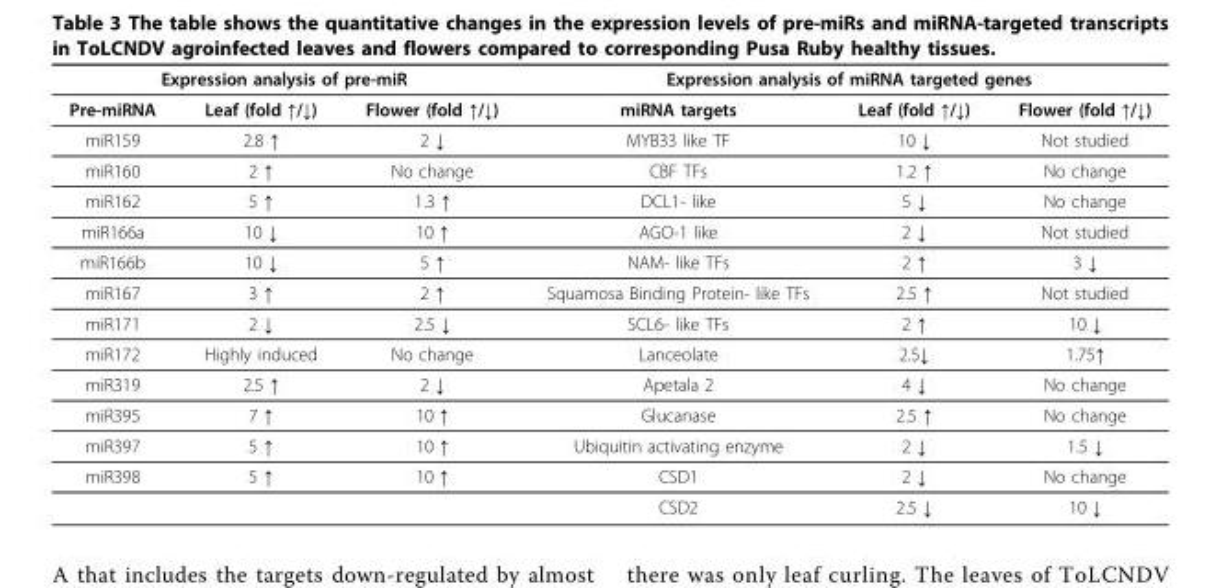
<table><thead><tr><td colspan="3">Expression analysis of pre-miR</td><td colspan="3">Expression analysis of miRNA targeted genes</td></tr><tr><td>Pre-miRNA</td><td>Leaf (fold ↑/↓)</td><td>Flower (fold ↑/↓)</td><td>miRNA targets</td><td>Leaf (fold ↑/↓)</td><td>Flower (fold ↑/↓)</td></tr></thead><tbody><tr><td>miR159</td><td>2.8 ↑</td><td>2 ↓</td><td>MYB33 like TF</td><td>10 ↓</td><td>Not studied</td></tr><tr><td>miR160</td><td>2 ↑</td><td>No change</td><td>CBF TFs</td><td>1.2 ↑</td><td>No change</td></tr><tr><td>miR162</td><td>5 ↑</td><td>1.3 ↑</td><td>DCL1- like</td><td>5 ↓</td><td>No change</td></tr><tr><td>miR166a</td><td>10 ↓</td><td>10 ↑</td><td>AGO-1 like</td><td>2 ↓</td><td>Not studied</td></tr><tr><td>miR166b</td><td>10 ↓</td><td>5 ↑</td><td>NAM- like TFs</td><td>2 ↑</td><td>3 ↓</td></tr><tr><td>miR167</td><td>3 ↑</td><td>2 ↑</td><td>Squamosa Binding Protein- like TFs</td><td>2.5 ↑</td><td>Not studied</td></tr><tr><td>miR171</td><td>2 ↓</td><td>2.5 ↓</td><td>SCL6- like TFs</td><td>2 ↑</td><td>10 ↓</td></tr><tr><td>miR172</td><td>Highly induced</td><td>No change</td><td>Lanceolate</td><td>2.5↓</td><td>1.75↑</td></tr><tr><td>miR319</td><td>2.5 ↑</td><td>2 ↓</td><td>Apetala 2</td><td>4 ↓</td><td>No change</td></tr><tr><td>miR395</td><td>7 ↑</td><td>10 ↑</td><td>Glucanase</td><td>2.5 ↑</td><td>No change</td></tr><tr><td>miR397</td><td>5 ↑</td><td>10 ↑</td><td>Ubiquitin activating enzyme</td><td>2 ↓</td><td>1.5 ↓</td></tr><tr><td rowspan="2">miR398</td><td>5 ↑</td><td>10 ↑</td><td>CSD1</td><td>2 ↓</td><td>No change</td></tr><tr><td></td><td></td><td>CSD2</td><td>2.5 ↓</td><td>10 ↓</td></tr></tbody></table>